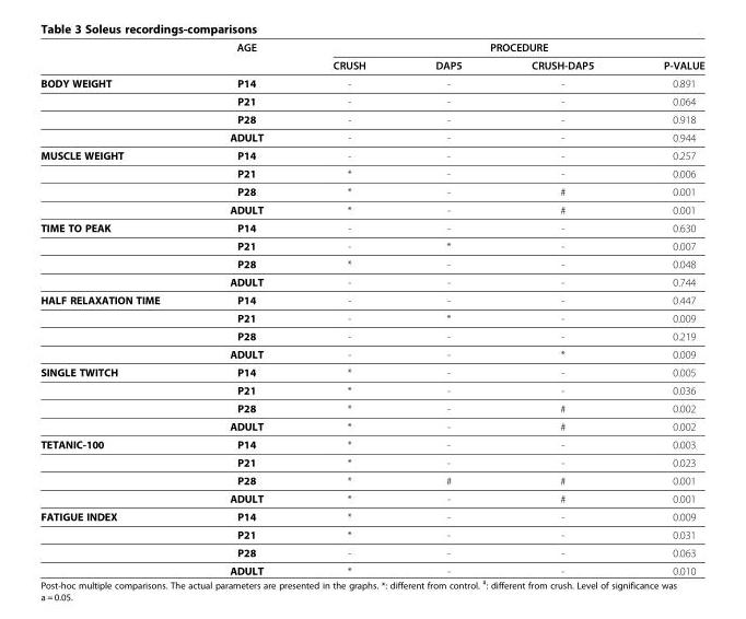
<table><thead><tr><td rowspan="2"></td><td rowspan="2">AGE</td><td colspan="4">PROCEDURE</td></tr><tr><td>CRUSH</td><td>DAP5</td><td>CRUSH-DAP5</td><td>P-VALUE</td></tr></thead><tbody><tr><td rowspan="4">BODY WEIGHT</td><td>P14</td><td>-</td><td>-</td><td>-</td><td>0.891</td></tr><tr><td>P21</td><td>-</td><td>-</td><td>-</td><td>0.064</td></tr><tr><td>P28</td><td>-</td><td>-</td><td>-</td><td>0.918</td></tr><tr><td>ADULT</td><td>-</td><td>-</td><td>-</td><td>0.944</td></tr><tr><td rowspan="4">MUSCLE WEIGHT</td><td>P14</td><td>-</td><td>-</td><td>-</td><td>0.257</td></tr><tr><td>P21</td><td>*</td><td>-</td><td>-</td><td>0.006</td></tr><tr><td>P28</td><td>*</td><td>-</td><td>#</td><td>0.001</td></tr><tr><td>ADULT</td><td>*</td><td>-</td><td>#</td><td>0.001</td></tr><tr><td rowspan="4">TIME TO PEAK</td><td>P14</td><td>-</td><td>-</td><td>-</td><td>0.630</td></tr><tr><td>P21</td><td>-</td><td>*</td><td>-</td><td>0.007</td></tr><tr><td>P28</td><td>*</td><td>-</td><td>-</td><td>0.048</td></tr><tr><td>ADULT</td><td>-</td><td>-</td><td>-</td><td>0.744</td></tr><tr><td rowspan="4">HALF RELAXATION TIME</td><td>P14</td><td>-</td><td>-</td><td>-</td><td>0.447</td></tr><tr><td>P21</td><td>-</td><td>*</td><td>-</td><td>0.009</td></tr><tr><td>P28</td><td>-</td><td>-</td><td>-</td><td>0.219</td></tr><tr><td>ADULT</td><td>-</td><td>-</td><td>*</td><td>0.009</td></tr><tr><td rowspan="4">SINGLE TWITCH</td><td>P14</td><td>*</td><td>-</td><td>-</td><td>0.005</td></tr><tr><td>P21</td><td>*</td><td>-</td><td>-</td><td>0.036</td></tr><tr><td>P28</td><td>*</td><td>-</td><td>#</td><td>0.002</td></tr><tr><td>ADULT</td><td>*</td><td>-</td><td>#</td><td>0.002</td></tr><tr><td rowspan="4">TETANIC-100</td><td>P14</td><td>*</td><td>-</td><td>-</td><td>0.003</td></tr><tr><td>P21</td><td>*</td><td>-</td><td>-</td><td>0.023</td></tr><tr><td>P28</td><td>*</td><td>#</td><td>#</td><td>0.001</td></tr><tr><td>ADULT</td><td>*</td><td>-</td><td>#</td><td>0.001</td></tr><tr><td rowspan="4">FATIGUE INDEX</td><td>P14</td><td>*</td><td>-</td><td>-</td><td>0.009</td></tr><tr><td>P21</td><td>*</td><td>-</td><td>-</td><td>0.031</td></tr><tr><td>P28</td><td>-</td><td>-</td><td>-</td><td>0.063</td></tr><tr><td>ADULT</td><td>*</td><td>-</td><td>-</td><td>0.010</td></tr></tbody></table>